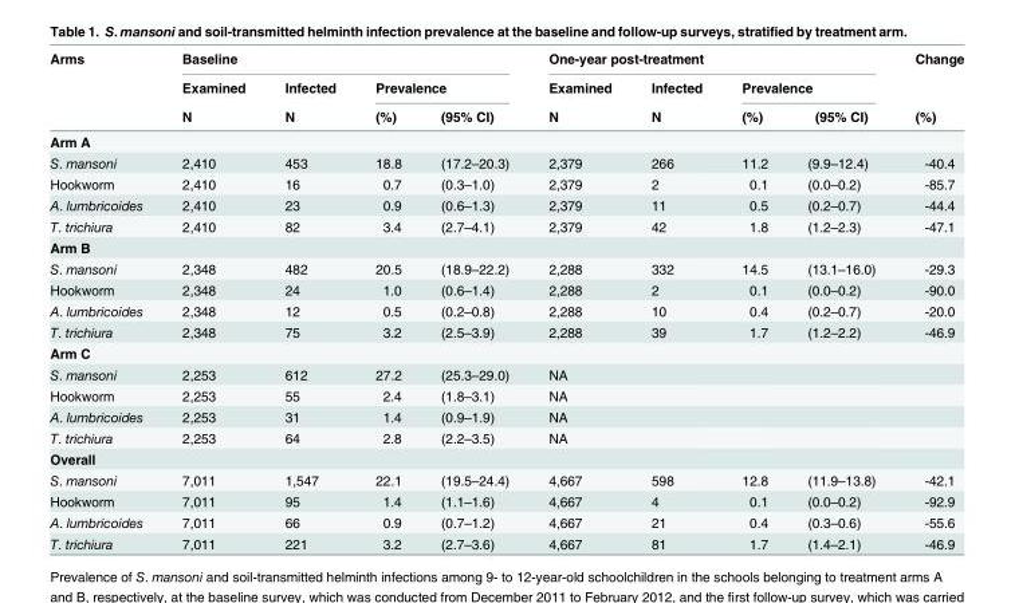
<table><thead><tr><td rowspan="3">Arms</td><td colspan="4">Baseline</td><td colspan="4">One-year post-treatment</td><td rowspan="3">Change (%)</td></tr><tr><td rowspan="2">Examined N</td><td rowspan="2">Infected N</td><td colspan="2">Prevalence</td><td rowspan="2">Examined N</td><td rowspan="2">Infected N</td><td colspan="2">Prevalence</td></tr><tr><td>(%)</td><td>(95% CI)</td><td>(%)</td><td>(95% CI)</td></tr></thead><tbody><tr><td colspan="10">Arm A</td></tr><tr><td>S. mansoni</td><td>2,410</td><td>453</td><td>18.8</td><td>(17.2–20.3)</td><td>2,379</td><td>266</td><td>11.2</td><td>(9.9–12.4)</td><td>-40.4</td></tr><tr><td>Hookworm</td><td>2,410</td><td>16</td><td>0.7</td><td>(0.3–1.0)</td><td>2,379</td><td>2</td><td>0.1</td><td>(0.0–0.2)</td><td>-85.7</td></tr><tr><td>A. lumbricoides</td><td>2,410</td><td>23</td><td>0.9</td><td>(0.6–1.3)</td><td>2,379</td><td>11</td><td>0.5</td><td>(0.2–0.7)</td><td>-44.4</td></tr><tr><td>T. trichiura</td><td>2,410</td><td>82</td><td>3.4</td><td>(2.7–4.1)</td><td>2,379</td><td>42</td><td>1.8</td><td>(1.2–2.3)</td><td>-47.1</td></tr><tr><td colspan="10">Arm B</td></tr><tr><td>S. mansoni</td><td>2,348</td><td>482</td><td>20.5</td><td>(18.9–22.2)</td><td>2,288</td><td>332</td><td>14.5</td><td>(13.1–16.0)</td><td>-29.3</td></tr><tr><td>Hookworm</td><td>2,348</td><td>24</td><td>1.0</td><td>(0.6–1.4)</td><td>2,288</td><td>2</td><td>0.1</td><td>(0.0–0.2)</td><td>-90.0</td></tr><tr><td>A. lumbricoides</td><td>2,348</td><td>12</td><td>0.5</td><td>(0.2–0.8)</td><td>2,288</td><td>10</td><td>0.4</td><td>(0.2–0.7)</td><td>-20.0</td></tr><tr><td>T. trichiura</td><td>2,348</td><td>75</td><td>3.2</td><td>(2.5–3.9)</td><td>2,288</td><td>39</td><td>1.7</td><td>(1.2–2.2)</td><td>-46.9</td></tr><tr><td colspan="10">Arm C</td></tr><tr><td>S. mansoni</td><td>2,253</td><td>612</td><td>27.2</td><td>(25.3–29.0)</td><td>NA</td><td></td><td></td><td></td><td></td></tr><tr><td>Hookworm</td><td>2,253</td><td>55</td><td>2.4</td><td>(1.8–3.1)</td><td>NA</td><td></td><td></td><td></td><td></td></tr><tr><td>A. lumbricoides</td><td>2,253</td><td>31</td><td>1.4</td><td>(0.9–1.9)</td><td>NA</td><td></td><td></td><td></td><td></td></tr><tr><td>T. trichiura</td><td>2,253</td><td>64</td><td>2.8</td><td>(2.2–3.5)</td><td>NA</td><td></td><td></td><td></td><td></td></tr><tr><td colspan="10">Overall</td></tr><tr><td>S. mansoni</td><td>7,011</td><td>1,547</td><td>22.1</td><td>(19.5–24.4)</td><td>4,667</td><td>598</td><td>12.8</td><td>(11.9–13.8)</td><td>-42.1</td></tr><tr><td>Hookworm</td><td>7,011</td><td>95</td><td>1.4</td><td>(1.1–1.6)</td><td>4,667</td><td>4</td><td>0.1</td><td>(0.0–0.2)</td><td>-92.9</td></tr><tr><td>A. lumbricoides</td><td>7,011</td><td>66</td><td>0.9</td><td>(0.7–1.2)</td><td>4,667</td><td>21</td><td>0.4</td><td>(0.3–0.6)</td><td>-55.6</td></tr><tr><td>T. trichiura</td><td>7,011</td><td>221</td><td>3.2</td><td>(2.7–3.6)</td><td>4,667</td><td>81</td><td>1.7</td><td>(1.4–2.1)</td><td>-46.9</td></tr></tbody></table>